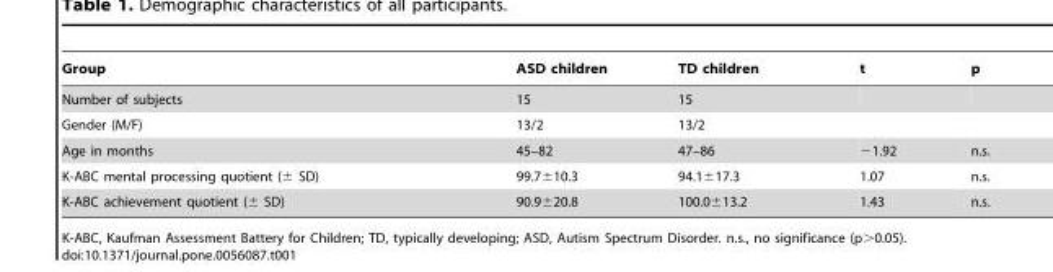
<table><thead><tr><td>Group</td><td>ASD children</td><td>TD children</td><td>t</td><td>p</td></tr></thead><tbody><tr><td>Number of subjects</td><td>15</td><td>15</td><td></td><td></td></tr><tr><td>Gender (M/F)</td><td>13/2</td><td>13/2</td><td></td><td></td></tr><tr><td>Age in months</td><td>45–82</td><td>47–86</td><td>−1.92</td><td>n.s.</td></tr><tr><td>K-ABC mental processing quotient (± SD)</td><td>99.7±10.3</td><td>94.1±17.3</td><td>1.07</td><td>n.s.</td></tr><tr><td>K-ABC achievement quotient (± SD)</td><td>90.9±20.8</td><td>100.0±13.2</td><td>1.43</td><td>n.s.</td></tr></tbody></table>